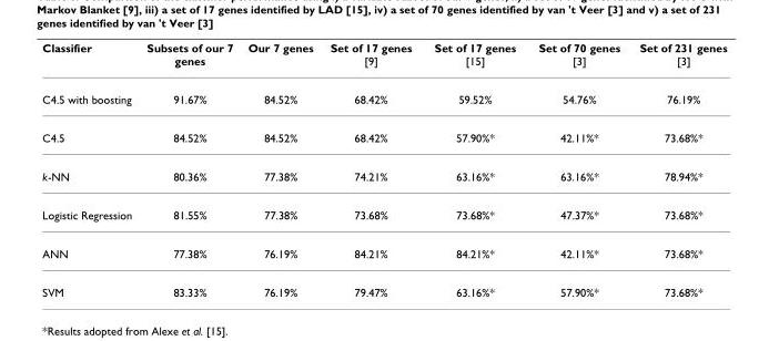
<table><thead><tr><td>Classifier</td><td>Subsets of our 7 genes</td><td>Our 7 genes</td><td>Set of 17 genes [9]</td><td>Set of 17 genes [15]</td><td>Set of 70 genes [3]</td><td>Set of 231 genes [3]</td></tr></thead><tbody><tr><td>C4.5 with boosting</td><td>91.67%</td><td>84.52%</td><td>68.42%</td><td>59.52%</td><td>54.76%</td><td>76.19%</td></tr><tr><td>C4.5</td><td>84.52%</td><td>84.52%</td><td>68.42%</td><td>57.90%*</td><td>42.11%*</td><td>73.68%*</td></tr><tr><td>k-NN</td><td>80.36%</td><td>77.38%</td><td>74.21%</td><td>63.16%*</td><td>63.16%*</td><td>78.94%*</td></tr><tr><td>Logistic Regression</td><td>81.55%</td><td>77.38%</td><td>73.68%</td><td>73.68%*</td><td>47.37%*</td><td>73.68%*</td></tr><tr><td>ANN</td><td>77.38%</td><td>76.19%</td><td>84.21%</td><td>84.21%*</td><td>42.11%*</td><td>73.68%*</td></tr><tr><td>SVM</td><td>83.33%</td><td>76.19%</td><td>79.47%</td><td>63.16%*</td><td>57.90%*</td><td>73.68%*</td></tr></tbody></table>